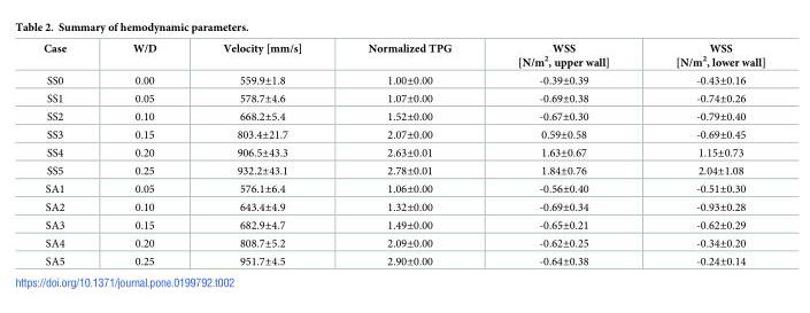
<table><thead><tr><td>Case</td><td>W/D</td><td>Velocity [mm/s]</td><td>Normalized TPG</td><td>WSS [N/m<sup>2</sup>, upper wall]</td><td>WSS [N/m<sup>2</sup>, lower wall]</td></tr></thead><tbody><tr><td>SS0</td><td>0.00</td><td>559.9±1.8</td><td>1.00±0.00</td><td>-0.39±0.39</td><td>-0.43±0.16</td></tr><tr><td>SS1</td><td>0.05</td><td>578.7±4.6</td><td>1.07±0.00</td><td>-0.69±0.38</td><td>-0.74±0.26</td></tr><tr><td>SS2</td><td>0.10</td><td>668.2±5.4</td><td>1.52±0.00</td><td>-0.67±0.30</td><td>-0.79±0.40</td></tr><tr><td>SS3</td><td>0.15</td><td>803.4±21.7</td><td>2.07±0.00</td><td>0.59±0.58</td><td>-0.69±0.45</td></tr><tr><td>SS4</td><td>0.20</td><td>906.5±43.3</td><td>2.63±0.01</td><td>1.63±0.67</td><td>1.15±0.73</td></tr><tr><td>SS5</td><td>0.25</td><td>932.2±43.1</td><td>2.78±0.01</td><td>1.84±0.76</td><td>2.04±1.08</td></tr><tr><td>SA1</td><td>0.05</td><td>576.1±6.4</td><td>1.06±0.00</td><td>-0.56±0.40</td><td>-0.51±0.30</td></tr><tr><td>SA2</td><td>0.10</td><td>643.4±4.9</td><td>1.32±0.00</td><td>-0.69±0.34</td><td>-0.93±0.28</td></tr><tr><td>SA3</td><td>0.15</td><td>682.9±4.7</td><td>1.49±0.00</td><td>-0.65±0.21</td><td>-0.62±0.29</td></tr><tr><td>SA4</td><td>0.20</td><td>808.7±5.2</td><td>2.09±0.00</td><td>-0.62±0.25</td><td>-0.34±0.20</td></tr><tr><td>SA5</td><td>0.25</td><td>951.7±4.5</td><td>2.90±0.00</td><td>-0.64±0.38</td><td>-0.24±0.14</td></tr></tbody></table>